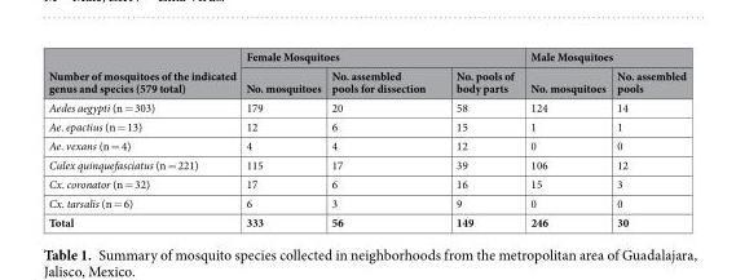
<table><thead><tr><td rowspan="2">Number of mosquitoes of the indicated genus and species (579 total)</td><td colspan="3">Female Mosquitoes</td><td colspan="2">Male Mosquitoes</td></tr><tr><td>No. mosquitoes</td><td>No. assembled pools for dissection</td><td>No. pools of body parts</td><td>No. mosquitoes</td><td>No. assembled pools</td></tr></thead><tbody><tr><td>Aedes aegypti (n = 303)</td><td>179</td><td>20</td><td>58</td><td>124</td><td>14</td></tr><tr><td>Ae. epactius (n = 13)</td><td>12</td><td>6</td><td>15</td><td>1</td><td>1</td></tr><tr><td>Ae. vexans (n = 4)</td><td>4</td><td>4</td><td>12</td><td>0</td><td>0</td></tr><tr><td>Culex quinquefasciatus (n = 221)</td><td>115</td><td>17</td><td>39</td><td>106</td><td>12</td></tr><tr><td>Cx. coronator (n = 32)</td><td>17</td><td>6</td><td>16</td><td>15</td><td>3</td></tr><tr><td>Cx. tarsalis (n = 6)</td><td>6</td><td>3</td><td>9</td><td>0</td><td>0</td></tr><tr><td>Total</td><td>333</td><td>56</td><td>149</td><td>246</td><td>30</td></tr></tbody></table>